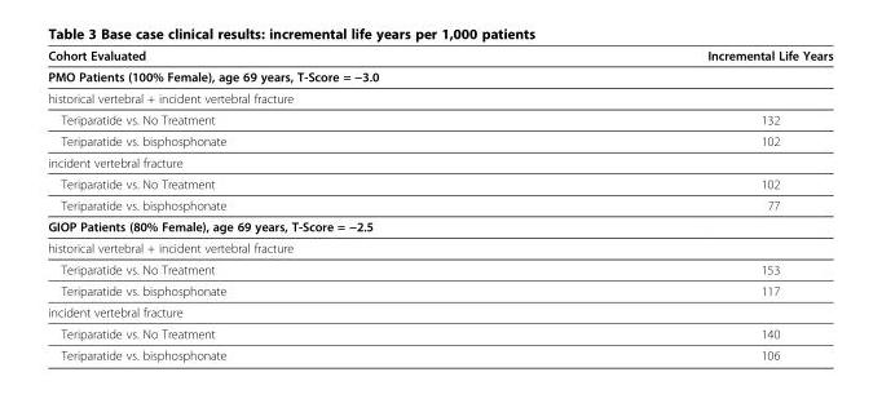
<table><thead><tr><td>Cohort Evaluated</td><td>Incremental Life Years</td></tr></thead><tbody><tr><td colspan="2">PMO Patients (100% Female), age 69 years, T-Score = −3.0</td></tr><tr><td colspan="2">historical vertebral + incident vertebral fracture</td></tr><tr><td>Teriparatide vs. No Treatment</td><td>132</td></tr><tr><td>Teriparatide vs. bisphosphonate</td><td>102</td></tr><tr><td colspan="2">incident vertebral fracture</td></tr><tr><td>Teriparatide vs. No Treatment</td><td>102</td></tr><tr><td>Teriparatide vs. bisphosphonate</td><td>77</td></tr><tr><td colspan="2">GIOP Patients (80% Female), age 69 years, T-Score = −2.5</td></tr><tr><td colspan="2">historical vertebral + incident vertebral fracture</td></tr><tr><td>Teriparatide vs. No Treatment</td><td>153</td></tr><tr><td>Teriparatide vs. bisphosphonate</td><td>117</td></tr><tr><td colspan="2">incident vertebral fracture</td></tr><tr><td>Teriparatide vs. No Treatment</td><td>140</td></tr><tr><td>Teriparatide vs. bisphosphonate</td><td>106</td></tr></tbody></table>